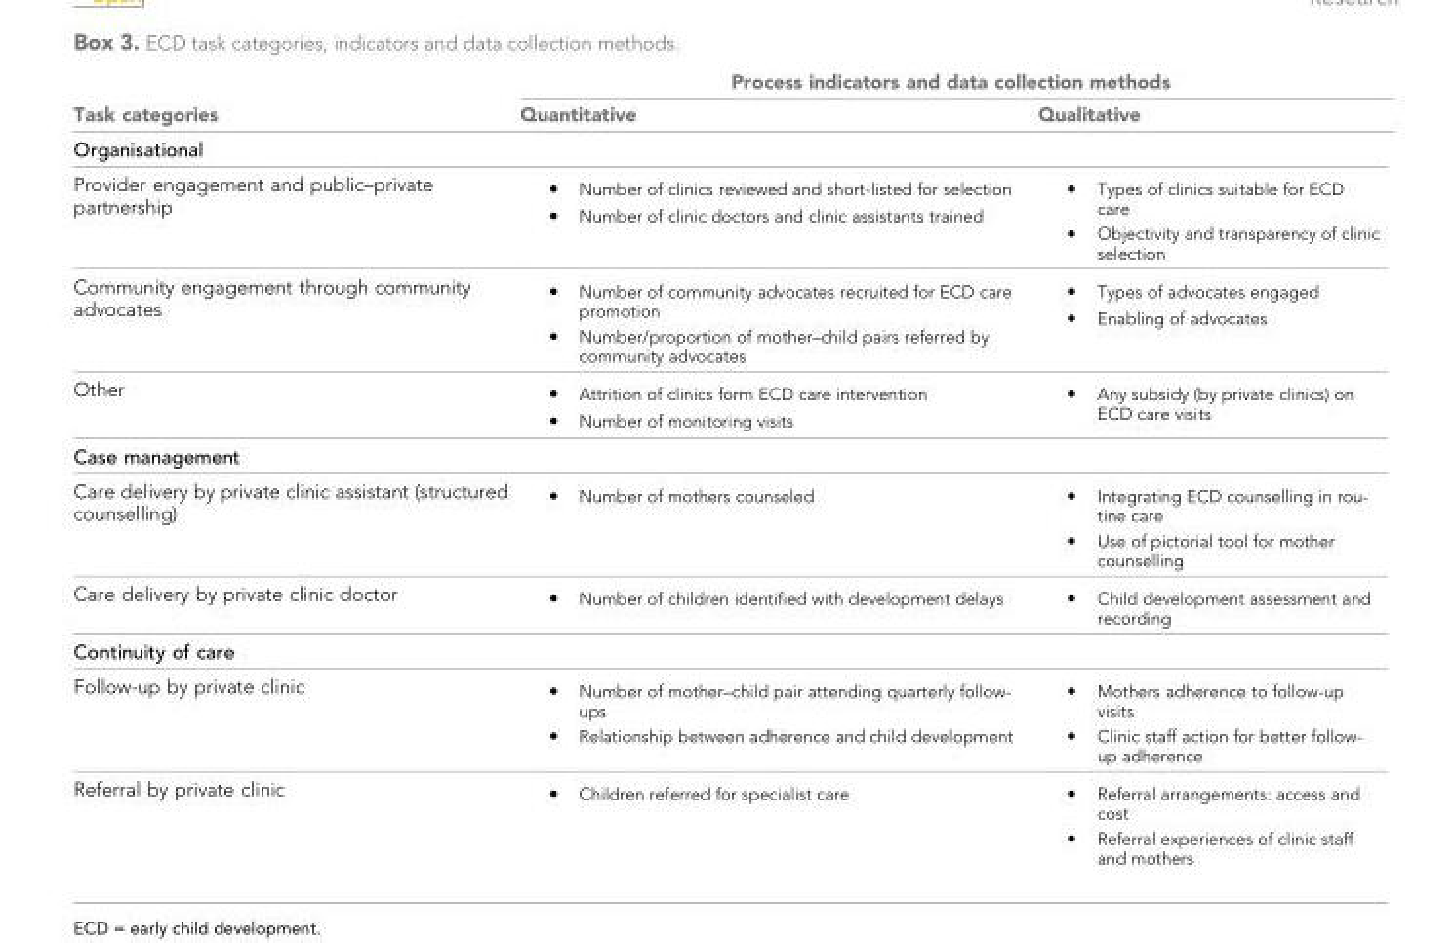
<table><thead><tr><td rowspan="2">Task categories</td><td colspan="2">Process indicators and data collection methods</td></tr><tr><td>Quantitative</td><td>Qualitative</td></tr></thead><tbody><tr><td colspan="3">Organisational</td></tr><tr><td>Provider engagement and public–private partnership</td><td>. Number of clinics reviewed and short-listed for selection . Number of clinic doctors and clinic assistants trained</td><td>. Types of clinics suitable for ECD care . Objectivity and transparency of clinic selection</td></tr><tr><td>Community engagement through community advocates</td><td>. Number of community advocates recruited for ECD care promotion . Number/proportion of mother–child pairs referred by community advocates</td><td>. Types of advocates engaged . Enabling of advocates</td></tr><tr><td>Other</td><td>. Attrition of clinics form ECD care intervention . Number of monitoring visits</td><td>. Any subsidy (by private clinics) on ECD care visits</td></tr><tr><td colspan="3">Case management</td></tr><tr><td>Care delivery by private clinic assistant (structured counselling)</td><td>. Number of mothers counseled</td><td>. Integrating ECD counselling in rou- tine care . Use of pictorial tool for mother counselling</td></tr><tr><td>Care delivery by private clinic doctor</td><td>. Number of children identified with development delays</td><td>. Child development assessment and recording</td></tr><tr><td colspan="3">Continuity of care</td></tr><tr><td>Follow-up by private clinic</td><td>. Number of mother–child pair attending quarterly follow- ups . Relationship between adherence and child development</td><td>. Mothers adherence to follow-up visits . Clinic staff action for better follow- up adherence</td></tr><tr><td>Referral by private clinic</td><td>. Children referred for specialist care</td><td>. Referral arrangements: access and cost . Referral experiences of clinic staff and mothers</td></tr></tbody></table>